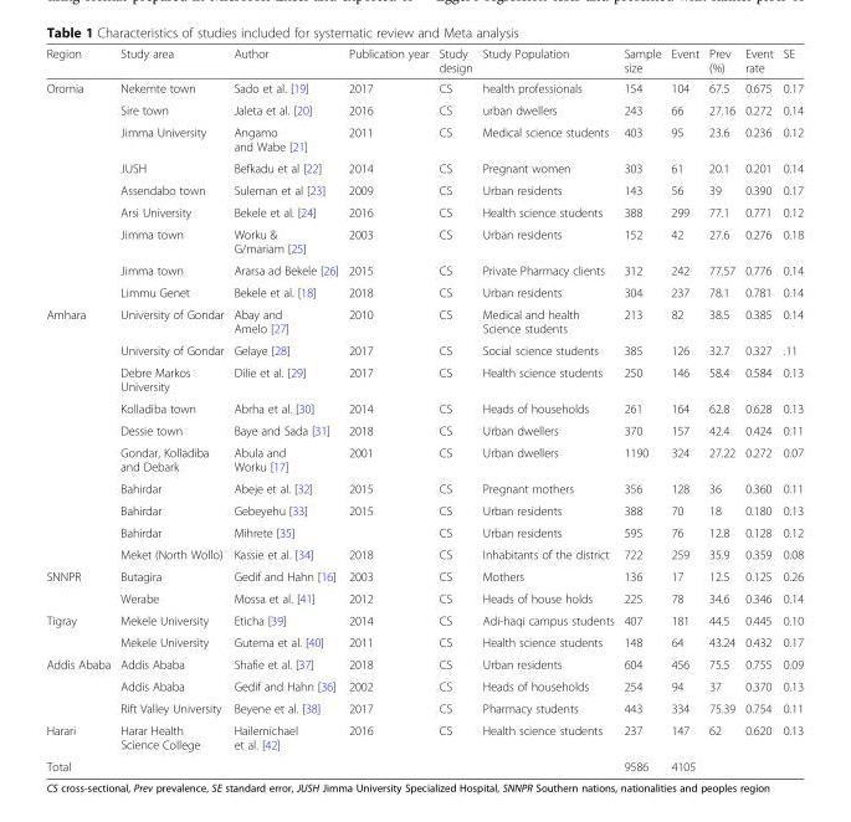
<table><thead><tr><td>Region</td><td>Study area</td><td>Author</td><td>Publication year</td><td>Study design</td><td>Study Population</td><td>Sample size</td><td>Event</td><td>Prev (%)</td><td>Event rate</td><td>SE</td></tr></thead><tbody><tr><td rowspan="9">Oromia</td><td>Nekemte town</td><td>Sado et al. [19]</td><td>2017</td><td>CS</td><td>health professionals</td><td>154</td><td>104</td><td>67.5</td><td>0.675</td><td>0.17</td></tr><tr><td>Sire town</td><td>Jaleta et al. [20]</td><td>2016</td><td>CS</td><td>urban dwellers</td><td>243</td><td>66</td><td>27.16</td><td>0.272</td><td>0.14</td></tr><tr><td>Jimma University</td><td>Angamo and Wabe [21]</td><td>2011</td><td>CS</td><td>Medical science students</td><td>403</td><td>95</td><td>23.6</td><td>0.236</td><td>0.12</td></tr><tr><td>JUSH</td><td>Befkadu et al [22]</td><td>2014</td><td>CS</td><td>Pregnant women</td><td>303</td><td>61</td><td>20.1</td><td>0.201</td><td>0.14</td></tr><tr><td>Assendabo town</td><td>Suleman et al [23]</td><td>2009</td><td>CS</td><td>Urban residents</td><td>143</td><td>56</td><td>39</td><td>0.390</td><td>0.17</td></tr><tr><td>Arsi University</td><td>Bekele et al. [24]</td><td>2016</td><td>CS</td><td>Health science students</td><td>388</td><td>299</td><td>77.1</td><td>0.771</td><td>0.12</td></tr><tr><td>Jimma town</td><td>Worku &amp; G/mariam [25]</td><td>2003</td><td>CS</td><td>Urban residents</td><td>152</td><td>42</td><td>27.6</td><td>0.276</td><td>0.18</td></tr><tr><td>Jimma town</td><td>Ararsa ad Bekele [26]</td><td>2015</td><td>CS</td><td>Private Pharmacy clients</td><td>312</td><td>242</td><td>77.57</td><td>0.776</td><td>0.14</td></tr><tr><td>Limmu Genet</td><td>Bekele et al. [18]</td><td>2018</td><td>CS</td><td>Urban residents</td><td>304</td><td>237</td><td>78.1</td><td>0.781</td><td>0.14</td></tr><tr><td rowspan="10">Amhara</td><td>University of Gondar</td><td>Abay and Amelo [27]</td><td>2010</td><td>CS</td><td>Medical and health Science students</td><td>213</td><td>82</td><td>38.5</td><td>0.385</td><td>0.14</td></tr><tr><td>University of Gondar</td><td>Gelaye [28]</td><td>2017</td><td>CS</td><td>Social science students</td><td>385</td><td>126</td><td>32.7</td><td>0.327</td><td>.11</td></tr><tr><td>Debre Markos University</td><td>Dilie et al. [29]</td><td>2017</td><td>CS</td><td>Health science students</td><td>250</td><td>146</td><td>58.4</td><td>0.584</td><td>0.13</td></tr><tr><td>Kolladiba town</td><td>Abrha et al. [30]</td><td>2014</td><td>CS</td><td>Heads of households</td><td>261</td><td>164</td><td>62.8</td><td>0.628</td><td>0.13</td></tr><tr><td>Dessie town</td><td>Baye and Sada [31]</td><td>2018</td><td>CS</td><td>Urban dwellers</td><td>370</td><td>157</td><td>42.4</td><td>0.424</td><td>0.11</td></tr><tr><td>Gondar, Kolladiba and Debark</td><td>Abula and Worku [17]</td><td>2001</td><td>CS</td><td>Urban dwellers</td><td>1190</td><td>324</td><td>27.22</td><td>0.272</td><td>0.07</td></tr><tr><td>Bahirdar</td><td>Abeje et al. [32]</td><td>2015</td><td>CS</td><td>Pregnant mothers</td><td>356</td><td>128</td><td>36</td><td>0.360</td><td>0.11</td></tr><tr><td>Bahirdar</td><td>Gebeyehu [33]</td><td>2015</td><td>CS</td><td>Urban residents</td><td>388</td><td>70</td><td>18</td><td>0.180</td><td>0.13</td></tr><tr><td>Bahirdar</td><td>Mihrete [35]</td><td></td><td>CS</td><td>Urban residents</td><td>595</td><td>76</td><td>12.8</td><td>0.128</td><td>0.12</td></tr><tr><td>Meket (North Wollo)</td><td>Kassie et al. [34]</td><td>2018</td><td>CS</td><td>Inhabitants of the district</td><td>722</td><td>259</td><td>35.9</td><td>0.359</td><td>0.08</td></tr><tr><td rowspan="2">SNNPR</td><td>Butagira</td><td>Gedif and Hahn [16]</td><td>2003</td><td>CS</td><td>Mothers</td><td>136</td><td>17</td><td>12.5</td><td>0.125</td><td>0.26</td></tr><tr><td>Werabe</td><td>Mossa et al. [41]</td><td>2012</td><td>CS</td><td>Heads of house holds</td><td>225</td><td>78</td><td>34.6</td><td>0.346</td><td>0.14</td></tr><tr><td rowspan="2">Tigray</td><td>Mekele University</td><td>Eticha [39]</td><td>2014</td><td>CS</td><td>Adi-haqi campus students</td><td>407</td><td>181</td><td>44.5</td><td>0.445</td><td>0.10</td></tr><tr><td>Mekele University</td><td>Gutema et al. [40]</td><td>2011</td><td>CS</td><td>Health science students</td><td>148</td><td>64</td><td>43.24</td><td>0.432</td><td>0.17</td></tr><tr><td rowspan="3">Addis Ababa</td><td>Addis Ababa</td><td>Shafie et al. [37]</td><td>2018</td><td>CS</td><td>Urban residents</td><td>604</td><td>456</td><td>75.5</td><td>0.755</td><td>0.09</td></tr><tr><td>Addis Ababa</td><td>Gedif and Hahn [36]</td><td>2002</td><td>CS</td><td>Heads of households</td><td>254</td><td>94</td><td>37</td><td>0.370</td><td>0.13</td></tr><tr><td>Rift Valley University</td><td>Beyene et al. [38]</td><td>2017</td><td>CS</td><td>Pharmacy students</td><td>443</td><td>334</td><td>75.39</td><td>0.754</td><td>0.11</td></tr><tr><td>Harari</td><td>Harar Health Science College</td><td>Hailemichael et al. [42]</td><td>2016</td><td>CS</td><td>Health science students</td><td>237</td><td>147</td><td>62</td><td>0.620</td><td>0.13</td></tr><tr><td colspan="6">Total</td><td>9586</td><td>4105</td><td colspan="3"></td></tr></tbody></table>